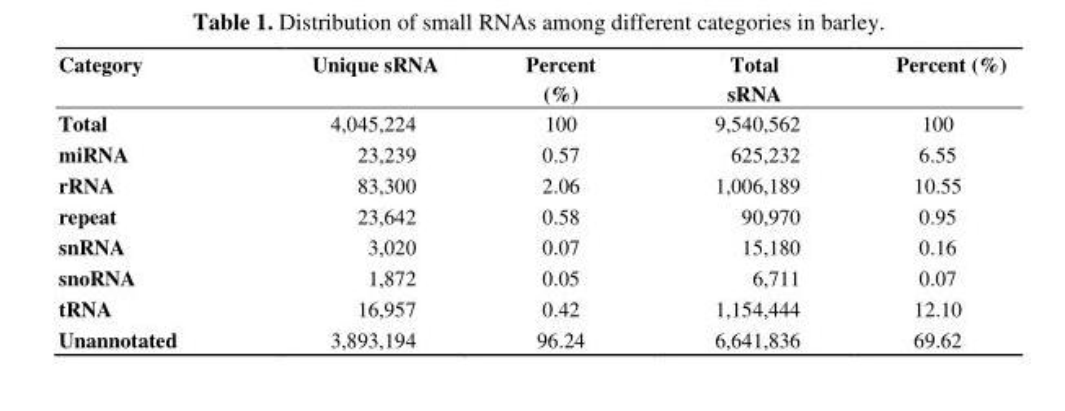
<table><thead><tr><td>Category</td><td>Unique sRNA</td><td>Percent (%)</td><td>Total sRNA</td><td>Percent (%)</td></tr></thead><tbody><tr><td>Total</td><td>4,045,224</td><td>100</td><td>9,540,562</td><td>100</td></tr><tr><td>miRNA</td><td>23,239</td><td>0.57</td><td>625,232</td><td>6.55</td></tr><tr><td>rRNA</td><td>83,300</td><td>2.06</td><td>1,006,189</td><td>10.55</td></tr><tr><td>repeat</td><td>23,642</td><td>0.58</td><td>90,970</td><td>0.95</td></tr><tr><td>snRNA</td><td>3,020</td><td>0.07</td><td>15,180</td><td>0.16</td></tr><tr><td>snoRNA</td><td>1,872</td><td>0.05</td><td>6,711</td><td>0.07</td></tr><tr><td>tRNA</td><td>16,957</td><td>0.42</td><td>1,154,444</td><td>12.10</td></tr><tr><td>Unannotated</td><td>3,893,194</td><td>96.24</td><td>6,641,836</td><td>69.62</td></tr></tbody></table>